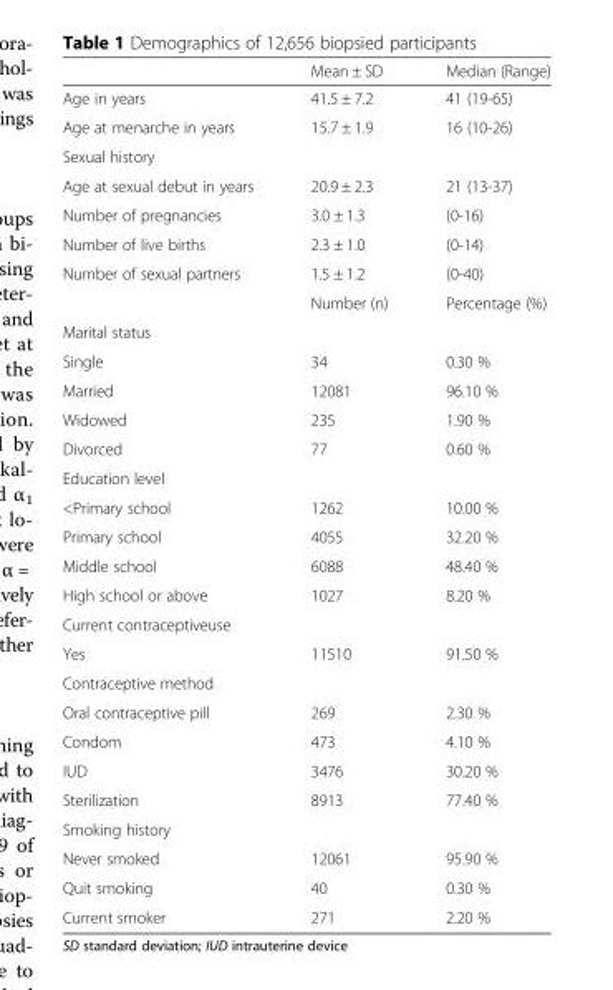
<table><thead><tr><td></td><td>Mean ± SD</td><td>Median (Range)</td></tr></thead><tbody><tr><td>Age in years</td><td>41.5 ± 7.2</td><td>41 (19-65)</td></tr><tr><td>Age at menarche in years</td><td>15.7 ± 1.9</td><td>16 (10-26)</td></tr><tr><td colspan="3">Sexual history</td></tr><tr><td>Age at sexual debut in years</td><td>20.9 ± 2.3</td><td>21 (13-37)</td></tr><tr><td>Number of pregnancies</td><td>3.0 ± 1.3</td><td>(0-16)</td></tr><tr><td>Number of live births</td><td>2.3 ± 1.0</td><td>(0-14)</td></tr><tr><td rowspan="2">Number of sexual partners</td><td>1.5 ± 1.2</td><td>(0-40)</td></tr><tr><td>Number (n)</td><td>Percentage (%)</td></tr><tr><td colspan="3">Marital status</td></tr><tr><td>Single</td><td>34</td><td>0.30 %</td></tr><tr><td>Married</td><td>12081</td><td>96.10 %</td></tr><tr><td>Widowed</td><td>235</td><td>1.90 %</td></tr><tr><td>Divorced</td><td>77</td><td>0.60 %</td></tr><tr><td colspan="3">Education level</td></tr><tr><td>&lt;Primary school</td><td>1262</td><td>10.00 %</td></tr><tr><td>Primary school</td><td>4055</td><td>32.20 %</td></tr><tr><td>Middle school</td><td>6088</td><td>48.40 %</td></tr><tr><td>High school or above</td><td>1027</td><td>8.20 %</td></tr><tr><td colspan="3">Current contraceptiveuse</td></tr><tr><td>Yes</td><td>11510</td><td>91.50 %</td></tr><tr><td colspan="3">Contraceptive method</td></tr><tr><td>Oral contraceptive pill</td><td>269</td><td>2.30 %</td></tr><tr><td>Condom</td><td>473</td><td>4.10 %</td></tr><tr><td>IUD</td><td>3476</td><td>30.20 %</td></tr><tr><td>Sterilization</td><td>8913</td><td>77.40 %</td></tr><tr><td colspan="3">Smoking history</td></tr><tr><td>Never smoked</td><td>12061</td><td>95.90 %</td></tr><tr><td>Quit smoking</td><td>40</td><td>0.30 %</td></tr><tr><td>Current smoker</td><td>271</td><td>2.20 %</td></tr></tbody></table>